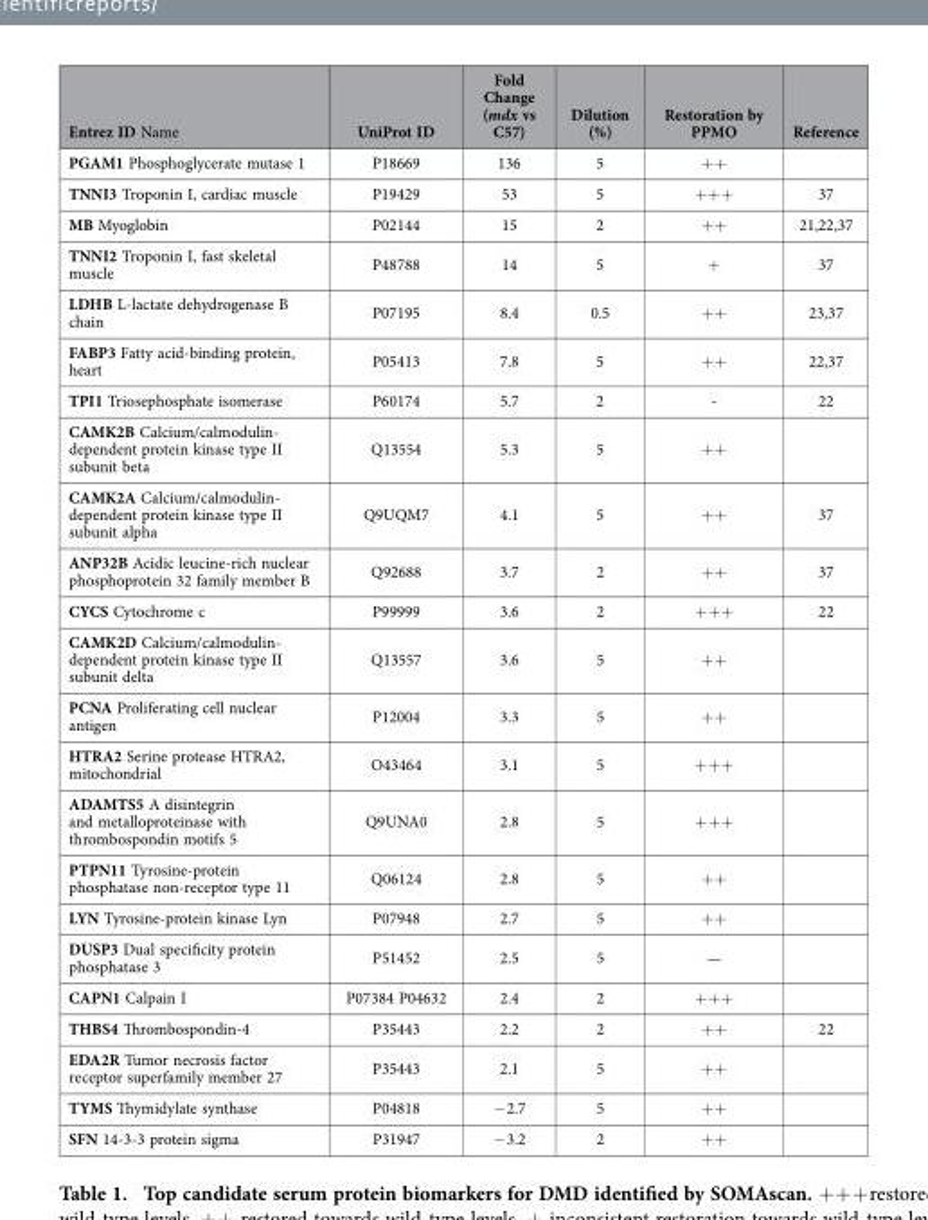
<table><thead><tr><td>Entrez ID Name</td><td>UniProt ID</td><td>Fold Change (mdx vs C57)</td><td>Dilution (%)</td><td>Restoration by PPMO</td><td>Reference</td></tr></thead><tbody><tr><td>PGAM1 Phosphoglycerate mutase 1</td><td>P18669</td><td>136</td><td>5</td><td>+ +</td><td></td></tr><tr><td>TNNI3 Troponin I, cardiac muscle</td><td>P19429</td><td>53</td><td>5</td><td>+ + +</td><td>37</td></tr><tr><td>MB Myoglobin</td><td>P02144</td><td>15</td><td>2</td><td>+ +</td><td>21,22,37</td></tr><tr><td>TNNI2 Troponin I, fast skeletal muscle</td><td>P48788</td><td>14</td><td>5</td><td>+</td><td>37</td></tr><tr><td>LDHB L-lactate dehydrogenase B chain</td><td>P07195</td><td>8.4</td><td>0.5</td><td>+ +</td><td>23,37</td></tr><tr><td>FABP3 Fatty acid-binding protein, heart</td><td>P05413</td><td>7.8</td><td>5</td><td>+ +</td><td>22,37</td></tr><tr><td>TPI1 Triosephosphate isomerase</td><td>P60174</td><td>5.7</td><td>2</td><td>-</td><td>22</td></tr><tr><td>CAMK2B Calcium/calmodulin- dependent protein kinase type II subunit beta</td><td>Q13554</td><td>5.3</td><td>5</td><td>+ +</td><td></td></tr><tr><td>CAMK2A Calcium/calmodulin- dependent protein kinase type II subunit alpha</td><td>Q9UQM7</td><td>4.1</td><td>5</td><td>+ +</td><td>37</td></tr><tr><td>ANP32B Acidic leucine-rich nuclear phosphoprotein 32 family member B</td><td>Q92688</td><td>3.7</td><td>2</td><td>+ +</td><td>37</td></tr><tr><td>CYCS Cytochrome c</td><td>P99999</td><td>3.6</td><td>2</td><td>+ + +</td><td>22</td></tr><tr><td>CAMK2D Calcium/calmodulin- dependent protein kinase type II subunit delta</td><td>Q13557</td><td>3.6</td><td>5</td><td>+ +</td><td></td></tr><tr><td>PCNA Proliferating cell nuclear antigen</td><td>P12004</td><td>3.3</td><td>5</td><td>+ +</td><td></td></tr><tr><td>HTRA2 Serine protease HTRA2, mitochondrial</td><td>O43464</td><td>3.1</td><td>5</td><td>+ + +</td><td></td></tr><tr><td>ADAMTS5 A disintegrin and metalloproteinase with thrombospondin motifs 5</td><td>Q9UNA0</td><td>2.8</td><td>5</td><td>+ + +</td><td></td></tr><tr><td>PTPN11 Tyrosine-protein phosphatase non-receptor type 11</td><td>Q06124</td><td>2.8</td><td>5</td><td>+ +</td><td></td></tr><tr><td>LYN Tyrosine-protein kinase Lyn</td><td>P07948</td><td>2.7</td><td>5</td><td>+ +</td><td></td></tr><tr><td>DUSP3 Dual specificity protein phosphatase 3</td><td>P51452</td><td>2.5</td><td>5</td><td>—</td><td></td></tr><tr><td>CAPN1 Calpain I</td><td>P07384 P04632</td><td>2.4</td><td>2</td><td>+ + +</td><td></td></tr><tr><td>THBS4 Thrombospondin-4</td><td>P35443</td><td>2.2</td><td>2</td><td>+ +</td><td>22</td></tr><tr><td>EDA2R Tumor necrosis factor receptor superfamily member 27</td><td>P35443</td><td>2.1</td><td>5</td><td>+ +</td><td></td></tr><tr><td>TYMS Thymidylate synthase</td><td>P04818</td><td>− 2.7</td><td>5</td><td>+ +</td><td></td></tr><tr><td>SFN 14-3-3 protein sigma</td><td>P31947</td><td>− 3.2</td><td>2</td><td>+ +</td><td></td></tr></tbody></table>